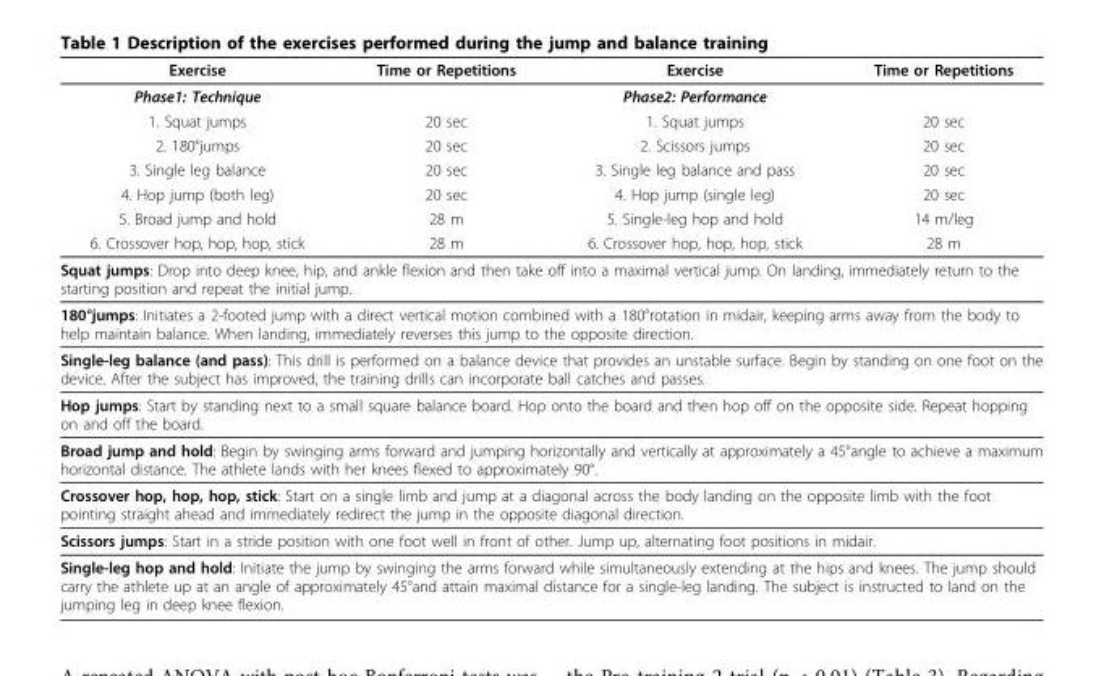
<table><thead><tr><td>Exercise</td><td>Time or Repetitions</td><td>Exercise</td><td>Time or Repetitions</td></tr></thead><tbody><tr><td>Phase1: Technique</td><td></td><td>Phase2: Performance</td><td></td></tr><tr><td>1. Squat jumps</td><td>20 sec</td><td>1. Squat jumps</td><td>20 sec</td></tr><tr><td>2. 180°jumps</td><td>20 sec</td><td>2. Scissors jumps</td><td>20 sec</td></tr><tr><td>3. Single leg balance</td><td>20 sec</td><td>3. Single leg balance and pass</td><td>20 sec</td></tr><tr><td>4. Hop jump (both leg)</td><td>20 sec</td><td>4. Hop jump (single leg)</td><td>20 sec</td></tr><tr><td>5. Broad jump and hold</td><td>28 m</td><td>5. Single-leg hop and hold</td><td>14 m/leg</td></tr><tr><td>6. Crossover hop, hop, hop, stick</td><td>28 m</td><td>6. Crossover hop, hop, hop, stick</td><td>28 m</td></tr><tr><td colspan="4">Squat jumps: Drop into deep knee, hip, and ankle flexion and then take off into a maximal vertical jump. On landing, immediately return to the starting position and repeat the initial jump.</td></tr><tr><td colspan="4">180°jumps: Initiates a 2-footed jump with a direct vertical motion combined with a 180°rotation in midair, keeping arms away from the body to help maintain balance. When landing, immediately reverses this jump to the opposite direction.</td></tr><tr><td colspan="4">Single-leg balance (and pass): This drill is performed on a balance device that provides an unstable surface. Begin by standing on one foot on the device. After the subject has improved, the training drills can incorporate ball catches and passes.</td></tr><tr><td colspan="4">Hop jumps: Start by standing next to a small square balance board. Hop onto the board and then hop off on the opposite side. Repeat hopping on and off the board.</td></tr><tr><td colspan="4">Broad jump and hold: Begin by swinging arms forward and jumping horizontally and vertically at approximately a 45°angle to achieve a maximum horizontal distance. The athlete lands with her knees flexed to approximately 90°.</td></tr><tr><td colspan="4">Crossover hop, hop, hop, stick: Start on a single limb and jump at a diagonal across the body landing on the opposite limb with the foot pointing straight ahead and immediately redirect the jump in the opposite diagonal direction.</td></tr><tr><td colspan="4">Scissors jumps: Start in a stride position with one foot well in front of other. Jump up, alternating foot positions in midair.</td></tr><tr><td colspan="4">Single-leg hop and hold: Initiate the jump by swinging the arms forward while simultaneously extending at the hips and knees. The jump should carry the athlete up at an angle of approximately 45°and attain maximal distance for a single-leg landing. The subject is instructed to land on the jumping leg in deep knee flexion.</td></tr></tbody></table>